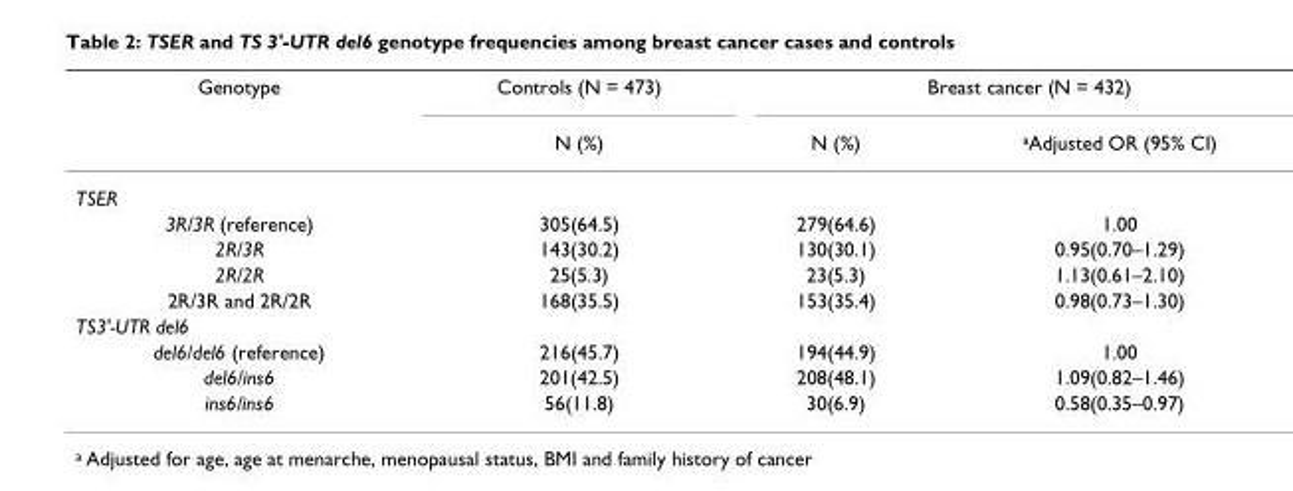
<table><thead><tr><td rowspan="2">Genotype</td><td rowspan="2">Controls (N = 473) N (%)</td><td colspan="2">Breast cancer (N = 432)</td></tr><tr><td>N (%)</td><td>aAdjusted OR (95% CI)</td></tr></thead><tbody><tr><td colspan="4">TSER</td></tr><tr><td>3R/3R (reference)</td><td>305(64.5)</td><td>279(64.6)</td><td>1.00</td></tr><tr><td>2R/3R</td><td>143(30.2)</td><td>130(30.1)</td><td>0.95(0.70–1.29)</td></tr><tr><td>2R/2R</td><td>25(5.3)</td><td>23(5.3)</td><td>1.13(0.61–2.10)</td></tr><tr><td>2R/3R and 2R/2R</td><td>168(35.5)</td><td>153(35.4)</td><td>0.98(0.73–1.30)</td></tr><tr><td colspan="4">TS3&#x27;-UTR del6</td></tr><tr><td>del6/del6 (reference)</td><td>216(45.7)</td><td>194(44.9)</td><td>1.00</td></tr><tr><td>del6/ins6</td><td>201(42.5)</td><td>208(48.1)</td><td>1.09(0.82–1.46)</td></tr><tr><td>ins6/ins6</td><td>56(11.8)</td><td>30(6.9)</td><td>0.58(0.35–0.97)</td></tr></tbody></table>